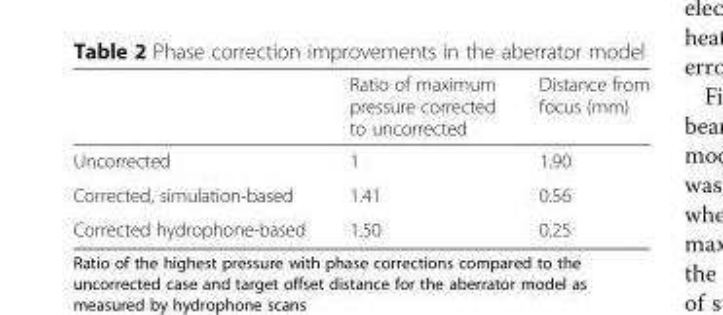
<table><thead><tr><td></td><td>Ratio of maximum pressure corrected to uncorrected</td><td>Distance from focus (mm)</td></tr></thead><tbody><tr><td>Uncorrected</td><td>1</td><td>1.90</td></tr><tr><td>Corrected, simulation-based</td><td>1.41</td><td>0.56</td></tr><tr><td>Corrected hydrophone-based</td><td>1.50</td><td>0.25</td></tr></tbody></table>